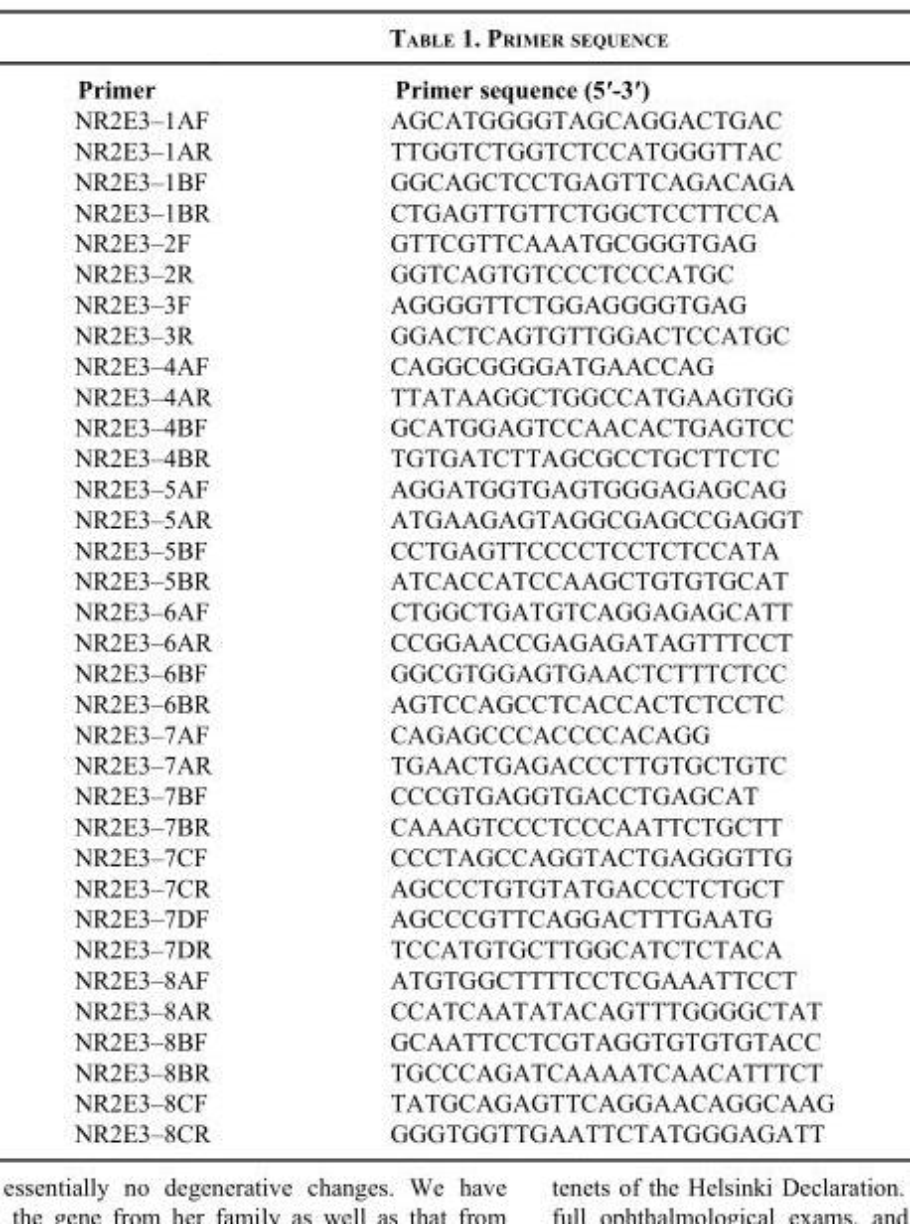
<table><thead><tr><td>Primer</td><td>Primer sequence (5′-3′)</td></tr></thead><tbody><tr><td>NR2E3–1AF</td><td>AGCATGGGGTAGCAGGACTGAC</td></tr><tr><td>NR2E3–1AR</td><td>TTGGTCTGGTCTCCATGGGTTAC</td></tr><tr><td>NR2E3–1BF</td><td>GGCAGCTCCTGAGTTCAGACAGA</td></tr><tr><td>NR2E3–1BR</td><td>CTGAGTTGTTCTGGCTCCTTCCA</td></tr><tr><td>NR2E3–2F</td><td>GTTCGTTCAAATGCGGGTGAG</td></tr><tr><td>NR2E3–2R</td><td>GGTCAGTGTCCCTCCCATGC</td></tr><tr><td>NR2E3–3F</td><td>AGGGGTTCTGGAGGGGTGAG</td></tr><tr><td>NR2E3–3R</td><td>GGACTCAGTGTTGGACTCCATGC</td></tr><tr><td>NR2E3–4AF</td><td>CAGGCGGGGATGAACCAG</td></tr><tr><td>NR2E3–4AR</td><td>TTATAAGGCTGGCCATGAAGTGG</td></tr><tr><td>NR2E3–4BF</td><td>GCATGGAGTCCAACACTGAGTCC</td></tr><tr><td>NR2E3–4BR</td><td>TGTGATCTTAGCGCCTGCTTCTC</td></tr><tr><td>NR2E3–5AF</td><td>AGGATGGTGAGTGGGAGAGCAG</td></tr><tr><td>NR2E3–5AR</td><td>ATGAAGAGTAGGCGAGCCGAGGT</td></tr><tr><td>NR2E3–5BF</td><td>CCTGAGTTCCCCTCCTCTCCATA</td></tr><tr><td>NR2E3–5BR</td><td>ATCACCATCCAAGCTGTGTGCAT</td></tr><tr><td>NR2E3–6AF</td><td>CTGGCTGATGTCAGGAGAGCATT</td></tr><tr><td>NR2E3–6AR</td><td>CCGGAACCGAGAGATAGTTTCCT</td></tr><tr><td>NR2E3–6BF</td><td>GGCGTGGAGTGAACTCTTTCTCC</td></tr><tr><td>NR2E3–6BR</td><td>AGTCCAGCCTCACCACTCTCCTC</td></tr><tr><td>NR2E3–7AF</td><td>CAGAGCCCACCCCACAGG</td></tr><tr><td>NR2E3–7AR</td><td>TGAACTGAGACCCTTGTGCTGTC</td></tr><tr><td>NR2E3–7BF</td><td>CCCGTGAGGTGACCTGAGCAT</td></tr><tr><td>NR2E3–7BR</td><td>CAAAGTCCCTCCCAATTCTGCTT</td></tr><tr><td>NR2E3–7CF</td><td>CCCTAGCCAGGTACTGAGGGTTG</td></tr><tr><td>NR2E3–7CR</td><td>AGCCCTGTGTATGACCCTCTGCT</td></tr><tr><td>NR2E3–7DF</td><td>AGCCCGTTCAGGACTTTGAATG</td></tr><tr><td>NR2E3–7DR</td><td>TCCATGTGCTTGGCATCTCTACA</td></tr><tr><td>NR2E3–8AF</td><td>ATGTGGCTTTTCCTCGAAATTCCT</td></tr><tr><td>NR2E3–8AR</td><td>CCATCAATATACAGTTTGGGGCTAT</td></tr><tr><td>NR2E3–8BF</td><td>GCAATTCCTCGTAGGTGTGTGTACC</td></tr><tr><td>NR2E3–8BR</td><td>TGCCCAGATCAAAATCAACATTTCT</td></tr><tr><td>NR2E3–8CF</td><td>TATGCAGAGTTCAGGAACAGGCAAG</td></tr><tr><td>NR2E3–8CR</td><td>GGGTGGTTGAATTCTATGGGAGATT</td></tr></tbody></table>